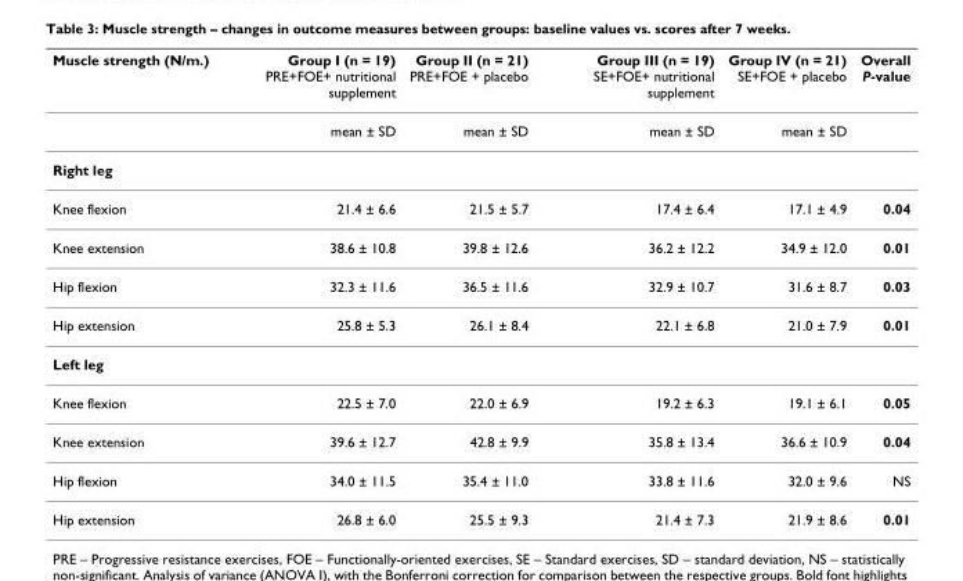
<table><thead><tr><td>Muscle strength (N/m.)</td><td>Group I (n = 19) PRE+FOE+ nutritional supplement</td><td>Group II (n = 21) PRE+FOE + placebo</td><td>Group III (n = 19) SE+FOE+ nutritional supplement</td><td>Group IV (n = 21) SE+FOE + placebo</td><td>Overall P-value</td></tr></thead><tbody><tr><td></td><td>mean ± SD</td><td>mean ± SD</td><td>mean ± SD</td><td>mean ± SD</td><td></td></tr><tr><td colspan="6">Right leg</td></tr><tr><td>Knee flexion</td><td>21.4 ± 6.6</td><td>21.5 ± 5.7</td><td>17.4 ± 6.4</td><td>17.1 ± 4.9</td><td>0.04</td></tr><tr><td>Knee extension</td><td>38.6 ± 10.8</td><td>39.8 ± 12.6</td><td>36.2 ± 12.2</td><td>34.9 ± 12.0</td><td>0.01</td></tr><tr><td>Hip flexion</td><td>32.3 ± 11.6</td><td>36.5 ± 11.6</td><td>32.9 ± 10.7</td><td>31.6 ± 8.7</td><td>0.03</td></tr><tr><td>Hip extension</td><td>25.8 ± 5.3</td><td>26.1 ± 8.4</td><td>22.1 ± 6.8</td><td>21.0 ± 7.9</td><td>0.01</td></tr><tr><td colspan="6">Left leg</td></tr><tr><td>Knee flexion</td><td>22.5 ± 7.0</td><td>22.0 ± 6.9</td><td>19.2 ± 6.3</td><td>19.1 ± 6.1</td><td>0.05</td></tr><tr><td>Knee extension</td><td>39.6 ± 12.7</td><td>42.8 ± 9.9</td><td>35.8 ± 13.4</td><td>36.6 ± 10.9</td><td>0.04</td></tr><tr><td>Hip flexion</td><td>34.0 ± 11.5</td><td>35.4 ± 11.0</td><td>33.8 ± 11.6</td><td>32.0 ± 9.6</td><td>NS</td></tr><tr><td>Hip extension</td><td>26.8 ± 6.0</td><td>25.5 ± 9.3</td><td>21.4 ± 7.3</td><td>21.9 ± 8.6</td><td>0.01</td></tr></tbody></table>